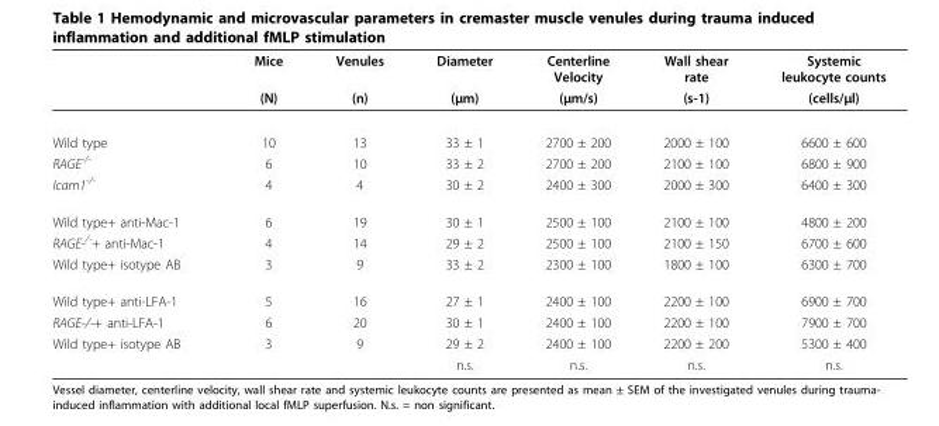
<table><thead><tr><td rowspan="2"></td><td rowspan="2">Mice (N)</td><td rowspan="2">Venules (n)</td><td rowspan="2">Diameter (μm)</td><td rowspan="2">Centerline Velocity (μm/s)</td><td rowspan="2">Wall shear rate (s-1)</td><td rowspan="2">Systemic leukocyte counts (cells/μl)</td></tr><tr></tr></thead><tbody><tr><td>Wild type</td><td>10</td><td>13</td><td>33 ± 1</td><td>2700 ± 200</td><td>2000 ± 100</td><td>6600 ± 600</td></tr><tr><td>RAGE-/-</td><td>6</td><td>10</td><td>33 ± 2</td><td>2700 ± 200</td><td>2100 ± 100</td><td>6800 ± 900</td></tr><tr><td>Icam1-/-</td><td>4</td><td>4</td><td>30 ± 2</td><td>2400 ± 300</td><td>2000 ± 300</td><td>6400 ± 300</td></tr><tr><td>Wild type+ anti-Mac-1</td><td>6</td><td>19</td><td>30 ± 1</td><td>2500 ± 100</td><td>2100 ± 100</td><td>4800 ± 200</td></tr><tr><td>RAGE-<sup>/-</sup>+ anti-Mac-1</td><td>4</td><td>14</td><td>29 ± 2</td><td>2500 ± 100</td><td>2100 ± 150</td><td>6700 ± 600</td></tr><tr><td>Wild type+ isotype AB</td><td>3</td><td>9</td><td>33 ± 2</td><td>2300 ± 100</td><td>1800 ± 100</td><td>6300 ± 700</td></tr><tr><td>Wild type+ anti-LFA-1</td><td>5</td><td>16</td><td>27 ± 1</td><td>2400 ± 100</td><td>2200 ± 100</td><td>6900 ± 700</td></tr><tr><td>RAGE-/-+ anti-LFA-1</td><td>6</td><td>20</td><td>30 ± 1</td><td>2400 ± 100</td><td>2200 ± 100</td><td>7900 ± 700</td></tr><tr><td rowspan="2">Wild type+ isotype AB</td><td>3</td><td>9</td><td>29 ± 2</td><td>2400 ± 100</td><td>2200 ± 200</td><td>5300 ± 400</td></tr><tr><td></td><td></td><td>n.s.</td><td>n.s.</td><td>n.s.</td><td>n.s.</td></tr></tbody></table>